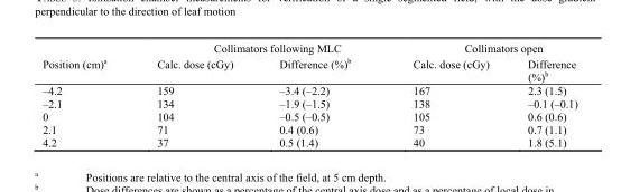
<table><thead><tr><td rowspan="2">Position (cm)<sup>a</sup></td><td colspan="2">Collimators following MLC</td><td colspan="2">Collimators open</td></tr><tr><td>Calc. dose (cGy)</td><td>Difference (%)<sup>b</sup></td><td>Calc. dose (cGy)</td><td>Difference (%)<sup>b</sup></td></tr></thead><tbody><tr><td>–4.2</td><td>159</td><td>–3.4 (–2.2)</td><td>167</td><td>2.3 (1.5)</td></tr><tr><td>–2.1</td><td>134</td><td>–1.9 (–1.5)</td><td>138</td><td>–0.1 (–0.1)</td></tr><tr><td>0</td><td>104</td><td>–0.5 (–0.5)</td><td>105</td><td>0.6 (0.6)</td></tr><tr><td>2.1</td><td>71</td><td>0.4 (0.6)</td><td>73</td><td>0.7 (1.1)</td></tr><tr><td>4.2</td><td>37</td><td>0.5 (1.4)</td><td>40</td><td>1.8 (5.1)</td></tr></tbody></table>